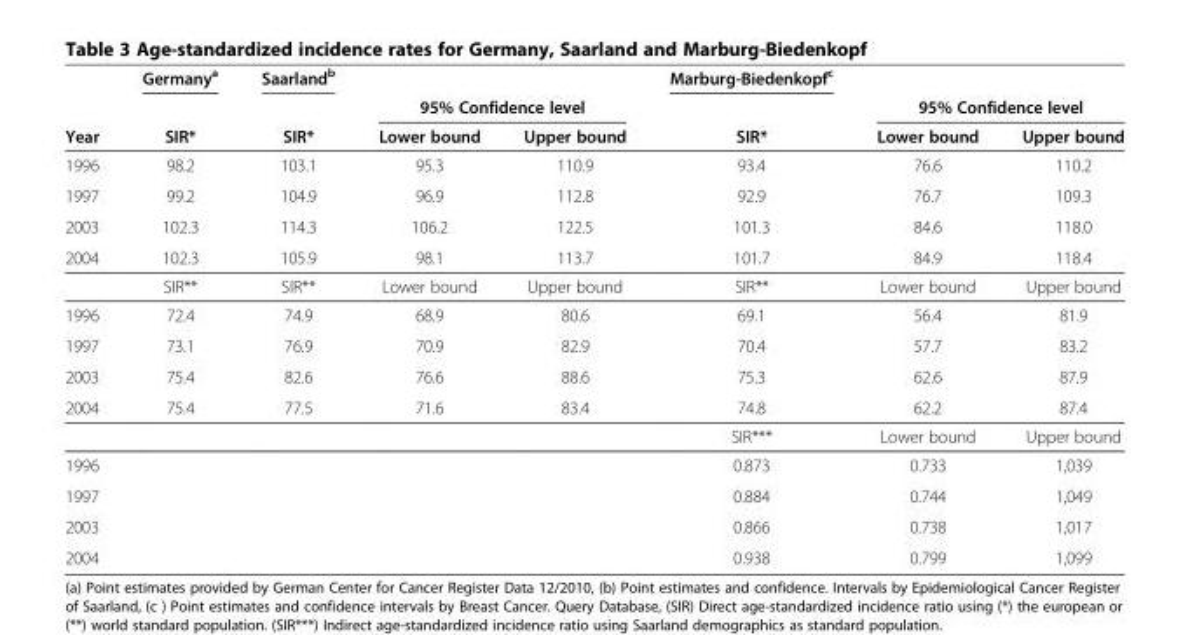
<table><thead><tr><td rowspan="3">Year</td><td rowspan="3">Germanya SIR*</td><td rowspan="3">Saarlandb SIR*</td><td></td><td></td><td rowspan="3">Marburg-Biedenkopfc SIR*</td><td></td><td></td></tr><tr><td colspan="2">95% Confidence level</td><td colspan="2">95% Confidence level</td></tr><tr><td>Lower bound</td><td>Upper bound</td><td>Lower bound</td><td>Upper bound</td></tr></thead><tbody><tr><td>1996</td><td>98.2</td><td>103.1</td><td>95.3</td><td>110.9</td><td>93.4</td><td>76.6</td><td>110.2</td></tr><tr><td>1997</td><td>99.2</td><td>104.9</td><td>96.9</td><td>112.8</td><td>92.9</td><td>76.7</td><td>109.3</td></tr><tr><td>2003</td><td>102.3</td><td>114.3</td><td>106.2</td><td>122.5</td><td>101.3</td><td>84.6</td><td>118.0</td></tr><tr><td rowspan="2">2004</td><td>102.3</td><td>105.9</td><td>98.1</td><td>113.7</td><td>101.7</td><td>84.9</td><td>118.4</td></tr><tr><td>SIR**</td><td>SIR**</td><td>Lower bound</td><td>Upper bound</td><td>SIR**</td><td>Lower bound</td><td>Upper bound</td></tr><tr><td>1996</td><td>72.4</td><td>74.9</td><td>68.9</td><td>80.6</td><td>69.1</td><td>56.4</td><td>81.9</td></tr><tr><td>1997</td><td>73.1</td><td>76.9</td><td>70.9</td><td>82.9</td><td>70.4</td><td>57.7</td><td>83.2</td></tr><tr><td>2003</td><td>75.4</td><td>82.6</td><td>76.6</td><td>88.6</td><td>75.3</td><td>62.6</td><td>87.9</td></tr><tr><td rowspan="2">2004</td><td>75.4</td><td>77.5</td><td>71.6</td><td>83.4</td><td>74.8</td><td>62.2</td><td>87.4</td></tr><tr><td></td><td></td><td></td><td></td><td>SIR***</td><td>Lower bound</td><td>Upper bound</td></tr><tr><td>1996</td><td></td><td></td><td></td><td></td><td>0.873</td><td>0.733</td><td>1,039</td></tr><tr><td>1997</td><td></td><td></td><td></td><td></td><td>0.884</td><td>0.744</td><td>1,049</td></tr><tr><td>2003</td><td></td><td></td><td></td><td></td><td>0.866</td><td>0.738</td><td>1,017</td></tr><tr><td>2004</td><td></td><td></td><td></td><td></td><td>0.938</td><td>0.799</td><td>1,099</td></tr></tbody></table>